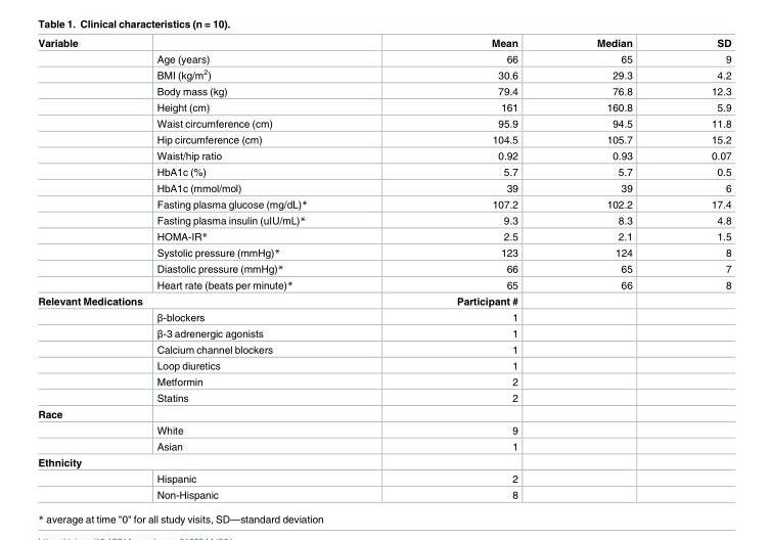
<table><tbody><tr><td rowspan="16">Variable</td><td></td><td>Mean</td><td>Median</td><td>SD</td></tr><tr><td>Age (years)</td><td>66</td><td>65</td><td>9</td></tr><tr><td>BMI (kg/m<sup>2</sup>)</td><td>30.6</td><td>29.3</td><td>4.2</td></tr><tr><td>Body mass (kg)</td><td>79.4</td><td>76.8</td><td>12.3</td></tr><tr><td>Height (cm)</td><td>161</td><td>160.8</td><td>5.9</td></tr><tr><td>Waist circumference (cm)</td><td>95.9</td><td>94.5</td><td>11.8</td></tr><tr><td>Hip circumference (cm)</td><td>104.5</td><td>105.7</td><td>15.2</td></tr><tr><td>Waist/hip ratio</td><td>0.92</td><td>0.93</td><td>0.07</td></tr><tr><td>HbA1c (%)</td><td>5.7</td><td>5.7</td><td>0.5</td></tr><tr><td>HbA1c (mmol/mol)</td><td>39</td><td>39</td><td>6</td></tr><tr><td>Fasting plasma glucose (mg/dL)*</td><td>107.2</td><td>102.2</td><td>17.4</td></tr><tr><td>Fasting plasma insulin (uIU/mL)*</td><td>9.3</td><td>8.3</td><td>4.8</td></tr><tr><td>HOMA-IR*</td><td>2.5</td><td>2.1</td><td>1.5</td></tr><tr><td>Systolic pressure (mmHg)*</td><td>123</td><td>124</td><td>8</td></tr><tr><td>Diastolic pressure (mmHg)*</td><td>66</td><td>65</td><td>7</td></tr><tr><td>Heart rate (beats per minute)*</td><td>65</td><td>66</td><td>8</td></tr><tr><td colspan="2">Relevant Medications</td><td>Participant #</td><td></td><td></td></tr><tr><td></td><td>β-blockers</td><td>1</td><td></td><td></td></tr><tr><td></td><td>β-3 adrenergic agonists</td><td>1</td><td></td><td></td></tr><tr><td></td><td>Calcium channel blockers</td><td>1</td><td></td><td></td></tr><tr><td></td><td>Loop diuretics</td><td>1</td><td></td><td></td></tr><tr><td></td><td>Metformin</td><td>2</td><td></td><td></td></tr><tr><td></td><td>Statins</td><td>2</td><td></td><td></td></tr><tr><td colspan="5">Race</td></tr><tr><td></td><td>White</td><td>9</td><td></td><td></td></tr><tr><td></td><td>Asian</td><td>1</td><td></td><td></td></tr><tr><td colspan="5">Ethnicity</td></tr><tr><td></td><td>Hispanic</td><td>2</td><td></td><td></td></tr><tr><td></td><td>Non-Hispanic</td><td>8</td><td></td><td></td></tr></tbody></table>